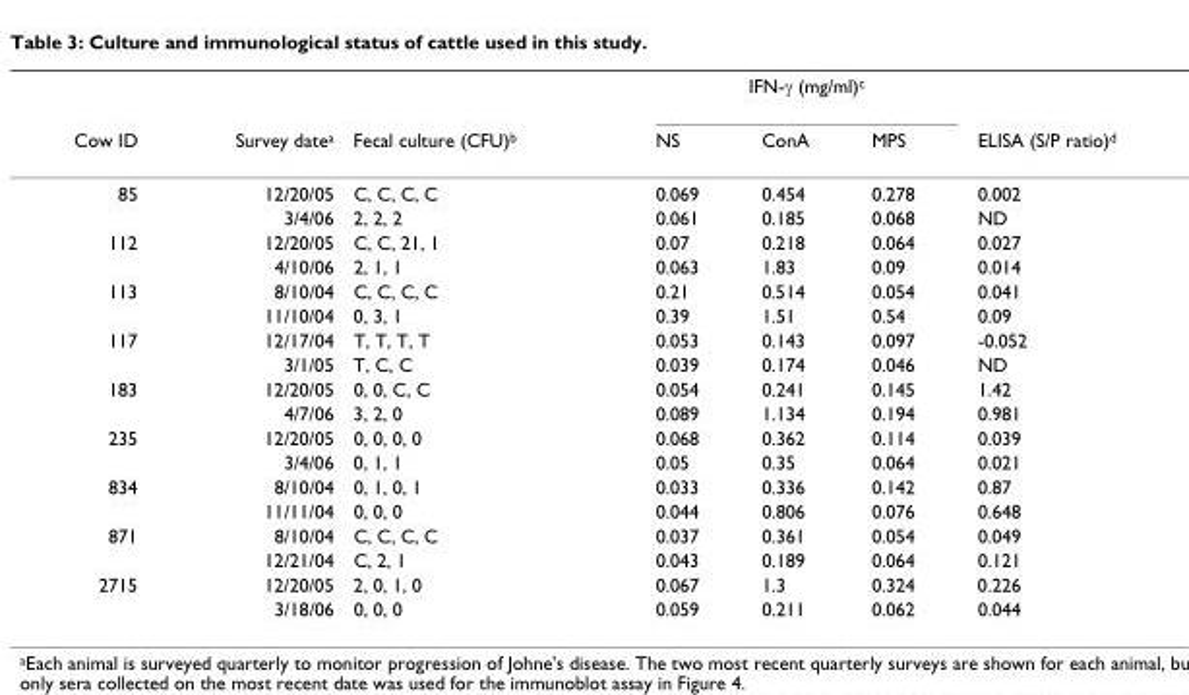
<table><thead><tr><td rowspan="2">Cow ID</td><td rowspan="2">Survey date<sup>a</sup></td><td rowspan="2">Fecal culture (CFU)<sup>b</sup></td><td colspan="3">IFN-γ (mg/ml)<sup>c</sup></td><td rowspan="2">ELISA (S/P ratio)<sup>d</sup></td></tr><tr><td>NS</td><td>ConA</td><td>MPS</td></tr></thead><tbody><tr><td rowspan="2">85</td><td>12/20/05</td><td>C, C, C, C</td><td>0.069</td><td>0.454</td><td>0.278</td><td>0.002</td></tr><tr><td>3/4/06</td><td>2, 2, 2</td><td>0.061</td><td>0.185</td><td>0.068</td><td>ND</td></tr><tr><td rowspan="2">112</td><td>12/20/05</td><td>C, C, 21, 1</td><td>0.07</td><td>0.218</td><td>0.064</td><td>0.027</td></tr><tr><td>4/10/06</td><td>2, 1, 1</td><td>0.063</td><td>1.83</td><td>0.09</td><td>0.014</td></tr><tr><td rowspan="2">113</td><td>8/10/04</td><td>C, C, C, C</td><td>0.21</td><td>0.514</td><td>0.054</td><td>0.041</td></tr><tr><td>11/10/04</td><td>0, 3, 1</td><td>0.39</td><td>1.51</td><td>0.54</td><td>0.09</td></tr><tr><td rowspan="2">117</td><td>12/17/04</td><td>T, T, T, T</td><td>0.053</td><td>0.143</td><td>0.097</td><td>-0.052</td></tr><tr><td>3/1/05</td><td>T, C, C</td><td>0.039</td><td>0.174</td><td>0.046</td><td>ND</td></tr><tr><td rowspan="2">183</td><td>12/20/05</td><td>0, 0, C, C</td><td>0.054</td><td>0.241</td><td>0.145</td><td>1.42</td></tr><tr><td>4/7/06</td><td>3, 2, 0</td><td>0.089</td><td>1.134</td><td>0.194</td><td>0.981</td></tr><tr><td rowspan="2">235</td><td>12/20/05</td><td>0, 0, 0, 0</td><td>0.068</td><td>0.362</td><td>0.114</td><td>0.039</td></tr><tr><td>3/4/06</td><td>0, 1, 1</td><td>0.05</td><td>0.35</td><td>0.064</td><td>0.021</td></tr><tr><td rowspan="2">834</td><td>8/10/04</td><td>0, 1, 0, 1</td><td>0.033</td><td>0.336</td><td>0.142</td><td>0.87</td></tr><tr><td>11/11/04</td><td>0, 0, 0</td><td>0.044</td><td>0.806</td><td>0.076</td><td>0.648</td></tr><tr><td rowspan="2">871</td><td>8/10/04</td><td>C, C, C, C</td><td>0.037</td><td>0.361</td><td>0.054</td><td>0.049</td></tr><tr><td>12/21/04</td><td>C, 2, 1</td><td>0.043</td><td>0.189</td><td>0.064</td><td>0.121</td></tr><tr><td rowspan="2">2715</td><td>12/20/05</td><td>2, 0, 1, 0</td><td>0.067</td><td>1.3</td><td>0.324</td><td>0.226</td></tr><tr><td>3/18/06</td><td>0, 0, 0</td><td>0.059</td><td>0.211</td><td>0.062</td><td>0.044</td></tr></tbody></table>